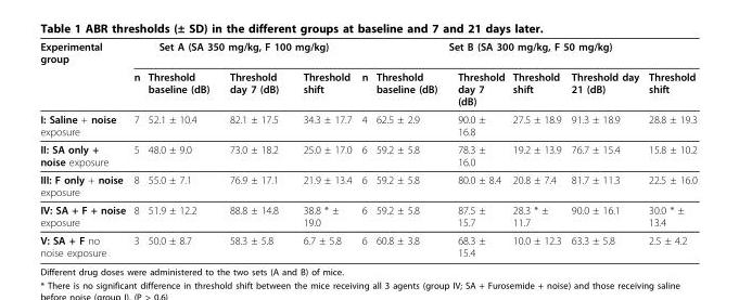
<table><thead><tr><td rowspan="2">Experimental group</td><td colspan="4">Set A (SA 350 mg/kg, F 100 mg/kg)</td><td colspan="6">Set B (SA 300 mg/kg, F 50 mg/kg)</td></tr><tr><td>n</td><td>Threshold baseline (dB)</td><td>Threshold day 7 (dB)</td><td>Threshold shift</td><td>n</td><td>Threshold baseline (dB)</td><td>Threshold day 7 (dB)</td><td>Threshold shift</td><td>Threshold day 21 (dB)</td><td>Threshold shift</td></tr></thead><tbody><tr><td>I: Saline + noise exposure</td><td>7</td><td>52.1 ± 10.4</td><td>82.1 ± 17.5</td><td>34.3 ± 17.7</td><td>4</td><td>62.5 ± 2.9</td><td>90.0 ± 16.8</td><td>27.5 ± 18.9</td><td>91.3 ± 18.9</td><td>28.8 ± 19.3</td></tr><tr><td>II: SA only + noise exposure</td><td>5</td><td>48.0 ± 9.0</td><td>73.0 ± 18.2</td><td>25.0 ± 17.0</td><td>6</td><td>59.2 ± 5.8</td><td>78.3 ± 16.0</td><td>19.2 ± 13.9</td><td>76.7 ± 15.4</td><td>15.8 ± 10.2</td></tr><tr><td>III: F only + noise exposure</td><td>8</td><td>55.0 ± 7.1</td><td>76.9 ± 17.1</td><td>21.9 ± 13.4</td><td>6</td><td>59.2 ± 5.8</td><td>80.0 ± 8.4</td><td>20.8 ± 7.4</td><td>81.7 ± 11.3</td><td>22.5 ± 16.0</td></tr><tr><td>IV: SA + F + noise exposure</td><td>8</td><td>51.9 ± 12.2</td><td>88.8 ± 14.8</td><td>38.8 * ± 19.0</td><td>6</td><td>59.2 ± 5.8</td><td>87.5 ± 15.7</td><td>28.3 * ± 11.7</td><td>90.0 ± 16.1</td><td>30.0 * ± 13.4</td></tr><tr><td>V: SA + F no noise exposure</td><td>3</td><td>50.0 ± 8.7</td><td>58.3 ± 5.8</td><td>6.7 ± 5.8</td><td>6</td><td>60.8 ± 3.8</td><td>68.3 ± 15.4</td><td>10.0 ± 12.3</td><td>63.3 ± 5.8</td><td>2.5 ± 4.2</td></tr></tbody></table>